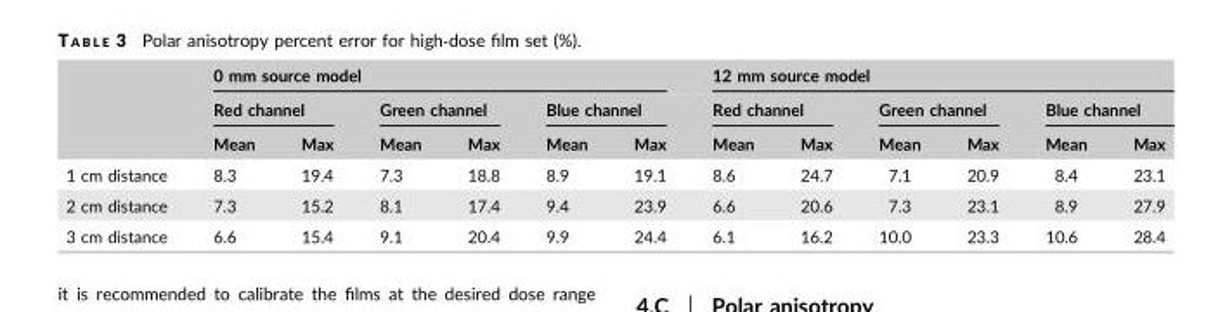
<table><thead><tr><td rowspan="3"></td><td colspan="6">0 mm source model</td><td colspan="6">12 mm source model</td></tr><tr><td colspan="2">Red channel</td><td colspan="2">Green channel</td><td colspan="2">Blue channel</td><td colspan="2">Red channel</td><td colspan="2">Green channel</td><td colspan="2">Blue channel</td></tr><tr><td>Mean</td><td>Max</td><td>Mean</td><td>Max</td><td>Mean</td><td>Max</td><td>Mean</td><td>Max</td><td>Mean</td><td>Max</td><td>Mean</td><td>Max</td></tr></thead><tbody><tr><td>1 cm distance</td><td>8.3</td><td>19.4</td><td>7.3</td><td>18.8</td><td>8.9</td><td>19.1</td><td>8.6</td><td>24.7</td><td>7.1</td><td>20.9</td><td>8.4</td><td>23.1</td></tr><tr><td>2 cm distance</td><td>7.3</td><td>15.2</td><td>8.1</td><td>17.4</td><td>9.4</td><td>23.9</td><td>6.6</td><td>20.6</td><td>7.3</td><td>23.1</td><td>8.9</td><td>27.9</td></tr><tr><td>3 cm distance</td><td>6.6</td><td>15.4</td><td>9.1</td><td>20.4</td><td>9.9</td><td>24.4</td><td>6.1</td><td>16.2</td><td>10.0</td><td>23.3</td><td>10.6</td><td>28.4</td></tr></tbody></table>